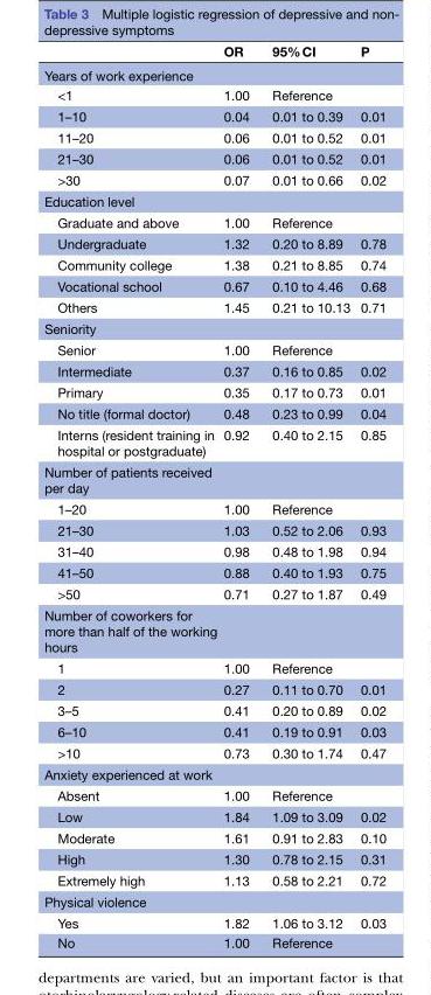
<table><thead><tr><td></td><td>OR</td><td>95% CI</td><td>P</td></tr></thead><tbody><tr><td colspan="4">Years of work experience</td></tr><tr><td>&lt;1</td><td>1.00</td><td>Reference</td><td></td></tr><tr><td>1–10</td><td>0.04</td><td>0.01 to 0.39</td><td>0.01</td></tr><tr><td>11–20</td><td>0.06</td><td>0.01 to 0.52</td><td>0.01</td></tr><tr><td>21–30</td><td>0.06</td><td>0.01 to 0.52</td><td>0.01</td></tr><tr><td>&gt;30</td><td>0.07</td><td>0.01 to 0.66</td><td>0.02</td></tr><tr><td colspan="4">Education level</td></tr><tr><td>Graduate and above</td><td>1.00</td><td>Reference</td><td></td></tr><tr><td>Undergraduate</td><td>1.32</td><td>0.20 to 8.89</td><td>0.78</td></tr><tr><td>Community college</td><td>1.38</td><td>0.21 to 8.85</td><td>0.74</td></tr><tr><td>Vocational school</td><td>0.67</td><td>0.10 to 4.46</td><td>0.68</td></tr><tr><td>Others</td><td>1.45</td><td>0.21 to 10.13</td><td>0.71</td></tr><tr><td colspan="4">Seniority</td></tr><tr><td>Senior</td><td>1.00</td><td>Reference</td><td></td></tr><tr><td>Intermediate</td><td>0.37</td><td>0.16 to 0.85</td><td>0.02</td></tr><tr><td>Primary</td><td>0.35</td><td>0.17 to 0.73</td><td>0.01</td></tr><tr><td>No title (formal doctor)</td><td>0.48</td><td>0.23 to 0.99</td><td>0.04</td></tr><tr><td>Interns (resident training in hospital or postgraduate)</td><td>0.92</td><td>0.40 to 2.15</td><td>0.85</td></tr><tr><td colspan="4">Number of patients received per day</td></tr><tr><td>1–20</td><td>1.00</td><td>Reference</td><td></td></tr><tr><td>21–30</td><td>1.03</td><td>0.52 to 2.06</td><td>0.93</td></tr><tr><td>31–40</td><td>0.98</td><td>0.48 to 1.98</td><td>0.94</td></tr><tr><td>41–50</td><td>0.88</td><td>0.40 to 1.93</td><td>0.75</td></tr><tr><td>&gt;50</td><td>0.71</td><td>0.27 to 1.87</td><td>0.49</td></tr><tr><td colspan="4">Number of coworkers for more than half of the working hours</td></tr><tr><td>1</td><td>1.00</td><td>Reference</td><td></td></tr><tr><td>2</td><td>0.27</td><td>0.11 to 0.70</td><td>0.01</td></tr><tr><td>3–5</td><td>0.41</td><td>0.20 to 0.89</td><td>0.02</td></tr><tr><td>6–10</td><td>0.41</td><td>0.19 to 0.91</td><td>0.03</td></tr><tr><td>&gt;10</td><td>0.73</td><td>0.30 to 1.74</td><td>0.47</td></tr><tr><td colspan="4">Anxiety experienced at work</td></tr><tr><td>Absent</td><td>1.00</td><td>Reference</td><td></td></tr><tr><td>Low</td><td>1.84</td><td>1.09 to 3.09</td><td>0.02</td></tr><tr><td>Moderate</td><td>1.61</td><td>0.91 to 2.83</td><td>0.10</td></tr><tr><td>High</td><td>1.30</td><td>0.78 to 2.15</td><td>0.31</td></tr><tr><td>Extremely high</td><td>1.13</td><td>0.58 to 2.21</td><td>0.72</td></tr><tr><td colspan="4">Physical violence</td></tr><tr><td>Yes</td><td>1.82</td><td>1.06 to 3.12</td><td>0.03</td></tr><tr><td>No</td><td>1.00</td><td>Reference</td><td></td></tr></tbody></table>